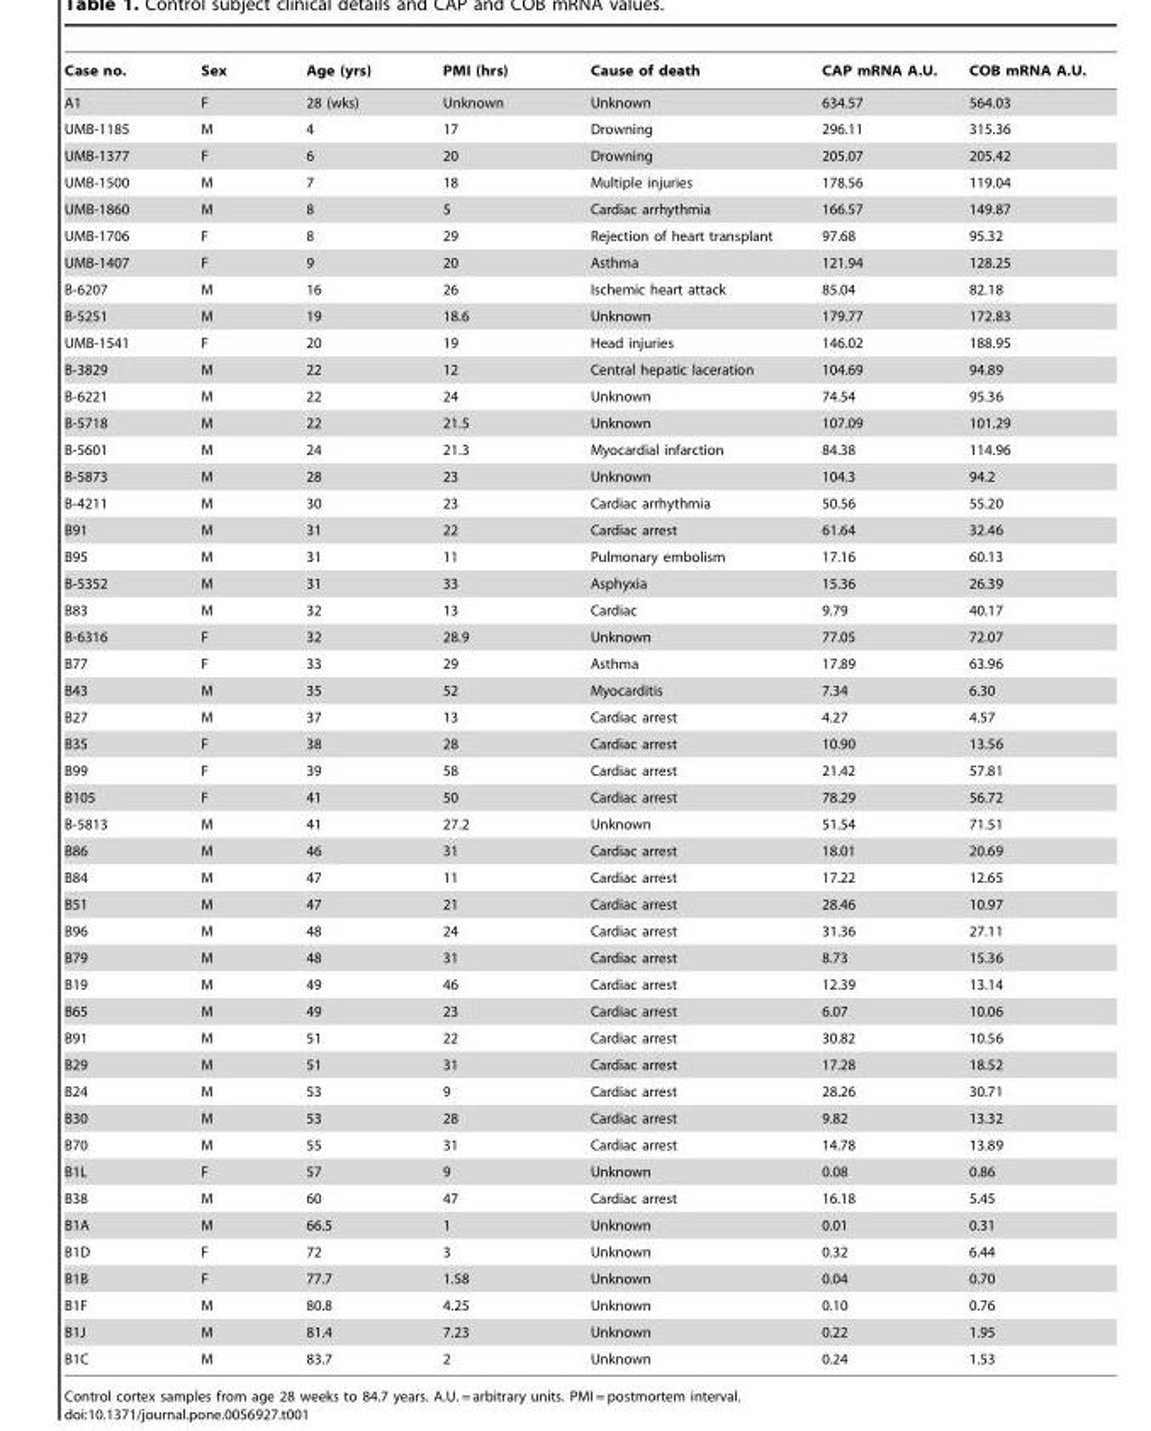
<table><thead><tr><td>Case no.</td><td>Sex</td><td>Age (yrs)</td><td>PMI (hrs)</td><td>Cause of death</td><td>CAP mRNA A.U.</td><td>COB mRNA A.U.</td></tr></thead><tbody><tr><td>A1</td><td>F</td><td>28 (wks)</td><td>Unknown</td><td>Unknown</td><td>634.57</td><td>564.03</td></tr><tr><td>UMB-1185</td><td>M</td><td>4</td><td>17</td><td>Drowning</td><td>296.11</td><td>315.36</td></tr><tr><td>UMB-1377</td><td>F</td><td>6</td><td>20</td><td>Drowning</td><td>205.07</td><td>205.42</td></tr><tr><td>UMB-1500</td><td>M</td><td>7</td><td>18</td><td>Multiple injuries</td><td>178.56</td><td>119.04</td></tr><tr><td>UMB-1860</td><td>M</td><td>8</td><td>5</td><td>Cardiac arrhythmia</td><td>166.57</td><td>149.87</td></tr><tr><td>UMB-1706</td><td>F</td><td>8</td><td>29</td><td>Rejection of heart transplant</td><td>97.68</td><td>95.32</td></tr><tr><td>UMB-1407</td><td>F</td><td>9</td><td>20</td><td>Asthma</td><td>121.94</td><td>128.25</td></tr><tr><td>B-6207</td><td>M</td><td>16</td><td>26</td><td>Ischemic heart attack</td><td>85.04</td><td>82.18</td></tr><tr><td>B-5251</td><td>M</td><td>19</td><td>18.6</td><td>Unknown</td><td>179.77</td><td>172.83</td></tr><tr><td>UMB-1541</td><td>F</td><td>20</td><td>19</td><td>Head injuries</td><td>146.02</td><td>188.95</td></tr><tr><td>B-3829</td><td>M</td><td>22</td><td>12</td><td>Central hepatic laceration</td><td>104.69</td><td>94.89</td></tr><tr><td>B-6221</td><td>M</td><td>22</td><td>24</td><td>Unknown</td><td>74.54</td><td>95.36</td></tr><tr><td>B-5718</td><td>M</td><td>22</td><td>21.5</td><td>Unknown</td><td>107.09</td><td>101.29</td></tr><tr><td>B-5601</td><td>M</td><td>24</td><td>21.3</td><td>Myocardial infarction</td><td>84.38</td><td>114.96</td></tr><tr><td>B-5873</td><td>M</td><td>28</td><td>23</td><td>Unknown</td><td>104.3</td><td>94.2</td></tr><tr><td>B-4211</td><td>M</td><td>30</td><td>23</td><td>Cardiac arrhythmia</td><td>50.56</td><td>55.20</td></tr><tr><td>B91</td><td>M</td><td>31</td><td>22</td><td>Cardiac arrest</td><td>61.64</td><td>32.46</td></tr><tr><td>B95</td><td>M</td><td>31</td><td>11</td><td>Pulmonary embolism</td><td>17.16</td><td>60.13</td></tr><tr><td>B-5352</td><td>M</td><td>31</td><td>33</td><td>Asphyxia</td><td>15.36</td><td>26.39</td></tr><tr><td>B83</td><td>M</td><td>32</td><td>13</td><td>Cardiac</td><td>9.79</td><td>40.17</td></tr><tr><td>B-6316</td><td>F</td><td>32</td><td>28.9</td><td>Unknown</td><td>77.05</td><td>72.07</td></tr><tr><td>B77</td><td>F</td><td>33</td><td>29</td><td>Asthma</td><td>17.89</td><td>63.96</td></tr><tr><td>B43</td><td>M</td><td>35</td><td>52</td><td>Myocarditis</td><td>7.34</td><td>6.30</td></tr><tr><td>B27</td><td>M</td><td>37</td><td>13</td><td>Cardiac arrest</td><td>4.27</td><td>4.57</td></tr><tr><td>B35</td><td>F</td><td>38</td><td>28</td><td>Cardiac arrest</td><td>10.90</td><td>13.56</td></tr><tr><td>B99</td><td>F</td><td>39</td><td>58</td><td>Cardiac arrest</td><td>21.42</td><td>57.81</td></tr><tr><td>B105</td><td>F</td><td>41</td><td>50</td><td>Cardiac arrest</td><td>78.29</td><td>56.72</td></tr><tr><td>B-5813</td><td>M</td><td>41</td><td>27.2</td><td>Unknown</td><td>51.54</td><td>71.51</td></tr><tr><td>B86</td><td>M</td><td>46</td><td>31</td><td>Cardiac arrest</td><td>18.01</td><td>20.69</td></tr><tr><td>B84</td><td>M</td><td>47</td><td>11</td><td>Cardiac arrest</td><td>17.22</td><td>12.65</td></tr><tr><td>B51</td><td>M</td><td>47</td><td>21</td><td>Cardiac arrest</td><td>28.46</td><td>10.97</td></tr><tr><td>B96</td><td>M</td><td>48</td><td>24</td><td>Cardiac arrest</td><td>31.36</td><td>27.11</td></tr><tr><td>B79</td><td>M</td><td>48</td><td>31</td><td>Cardiac arrest</td><td>8.73</td><td>15.36</td></tr><tr><td>B19</td><td>M</td><td>49</td><td>46</td><td>Cardiac arrest</td><td>12.39</td><td>13.14</td></tr><tr><td>B65</td><td>M</td><td>49</td><td>23</td><td>Cardiac arrest</td><td>6.07</td><td>10.06</td></tr><tr><td>B91</td><td>M</td><td>51</td><td>22</td><td>Cardiac arrest</td><td>30.82</td><td>10.56</td></tr><tr><td>B29</td><td>M</td><td>51</td><td>31</td><td>Cardiac arrest</td><td>17.28</td><td>18.52</td></tr><tr><td>B24</td><td>M</td><td>53</td><td>9</td><td>Cardiac arrest</td><td>28.26</td><td>30.71</td></tr><tr><td>B30</td><td>M</td><td>53</td><td>28</td><td>Cardiac arrest</td><td>9.82</td><td>13.32</td></tr><tr><td>B70</td><td>M</td><td>55</td><td>31</td><td>Cardiac arrest</td><td>14.78</td><td>13.89</td></tr><tr><td>B1L</td><td>F</td><td>57</td><td>9</td><td>Unknown</td><td>0.08</td><td>0.86</td></tr><tr><td>B38</td><td>M</td><td>60</td><td>47</td><td>Cardiac arrest</td><td>16.18</td><td>5.45</td></tr><tr><td>B1A</td><td>M</td><td>66.5</td><td>1</td><td>Unknown</td><td>0.01</td><td>0.31</td></tr><tr><td>B1D</td><td>F</td><td>72</td><td>3</td><td>Unknown</td><td>0.32</td><td>6.44</td></tr><tr><td>B1B</td><td>F</td><td>77.7</td><td>1.58</td><td>Unknown</td><td>0.04</td><td>0.70</td></tr><tr><td>B1F</td><td>M</td><td>80.8</td><td>4.25</td><td>Unknown</td><td>0.10</td><td>0.76</td></tr><tr><td>B1J</td><td>M</td><td>81.4</td><td>7.23</td><td>Unknown</td><td>0.22</td><td>1.95</td></tr><tr><td>B1C</td><td>M</td><td>83.7</td><td>2</td><td>Unknown</td><td>0.24</td><td>1.53</td></tr></tbody></table>